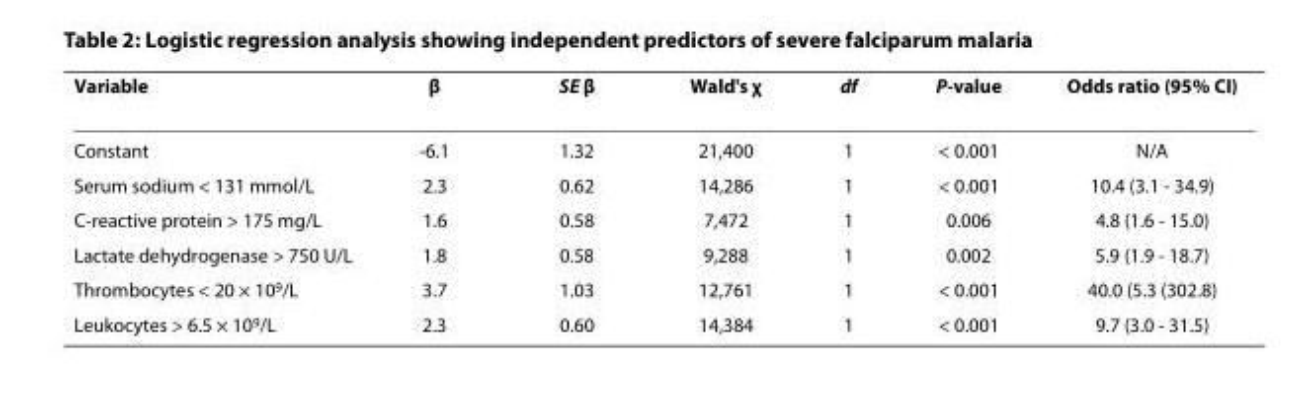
<table><thead><tr><td>Variable</td><td>β</td><td>SE β</td><td>Wald&#x27;s χ</td><td>df</td><td>P-value</td><td>Odds ratio (95% CI)</td></tr></thead><tbody><tr><td>Constant</td><td>-6.1</td><td>1.32</td><td>21,400</td><td>1</td><td>&lt; 0.001</td><td>N/A</td></tr><tr><td>Serum sodium &lt; 131 mmol/L</td><td>2.3</td><td>0.62</td><td>14,286</td><td>1</td><td>&lt; 0.001</td><td>10.4 (3.1 - 34.9)</td></tr><tr><td>C-reactive protein &gt; 175 mg/L</td><td>1.6</td><td>0.58</td><td>7,472</td><td>1</td><td>0.006</td><td>4.8 (1.6 - 15.0)</td></tr><tr><td>Lactate dehydrogenase &gt; 750 U/L</td><td>1.8</td><td>0.58</td><td>9,288</td><td>1</td><td>0.002</td><td>5.9 (1.9 - 18.7)</td></tr><tr><td>Thrombocytes &lt; 20 × 10<sup>9</sup>/L</td><td>3.7</td><td>1.03</td><td>12,761</td><td>1</td><td>&lt; 0.001</td><td>40.0 (5.3 (302.8)</td></tr><tr><td>Leukocytes &gt; 6.5 × 10<sup>9</sup>/L</td><td>2.3</td><td>0.60</td><td>14,384</td><td>1</td><td>&lt; 0.001</td><td>9.7 (3.0 - 31.5)</td></tr></tbody></table>